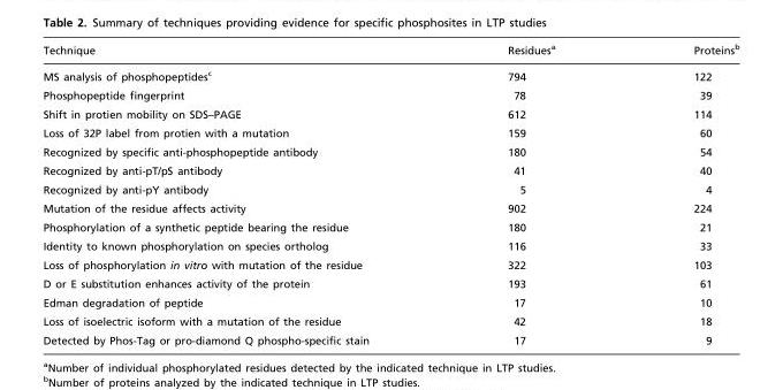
<table><thead><tr><td>Technique</td><td>Residues<sup>a</sup></td><td>Proteins<sup>b</sup></td></tr></thead><tbody><tr><td>MS analysis of phosphopeptides<sup>c</sup></td><td>794</td><td>122</td></tr><tr><td>Phosphopeptide fingerprint</td><td>78</td><td>39</td></tr><tr><td>Shift in protien mobility on SDS–PAGE</td><td>612</td><td>114</td></tr><tr><td>Loss of 32P label from protien with a mutation</td><td>159</td><td>60</td></tr><tr><td>Recognized by specific anti-phosphopeptide antibody</td><td>180</td><td>54</td></tr><tr><td>Recognized by anti-pT/pS antibody</td><td>41</td><td>40</td></tr><tr><td>Recognized by anti-pY antibody</td><td>5</td><td>4</td></tr><tr><td>Mutation of the residue affects activity</td><td>902</td><td>224</td></tr><tr><td>Phosphorylation of a synthetic peptide bearing the residue</td><td>180</td><td>21</td></tr><tr><td>Identity to known phosphorylation on species ortholog</td><td>116</td><td>33</td></tr><tr><td>Loss of phosphorylation in vitro with mutation of the residue</td><td>322</td><td>103</td></tr><tr><td>D or E substitution enhances activity of the protein</td><td>193</td><td>61</td></tr><tr><td>Edman degradation of peptide</td><td>17</td><td>10</td></tr><tr><td>Loss of isoelectric isoform with a mutation of the residue</td><td>42</td><td>18</td></tr><tr><td>Detected by Phos-Tag or pro-diamond Q phospho-specific stain</td><td>17</td><td>9</td></tr></tbody></table>